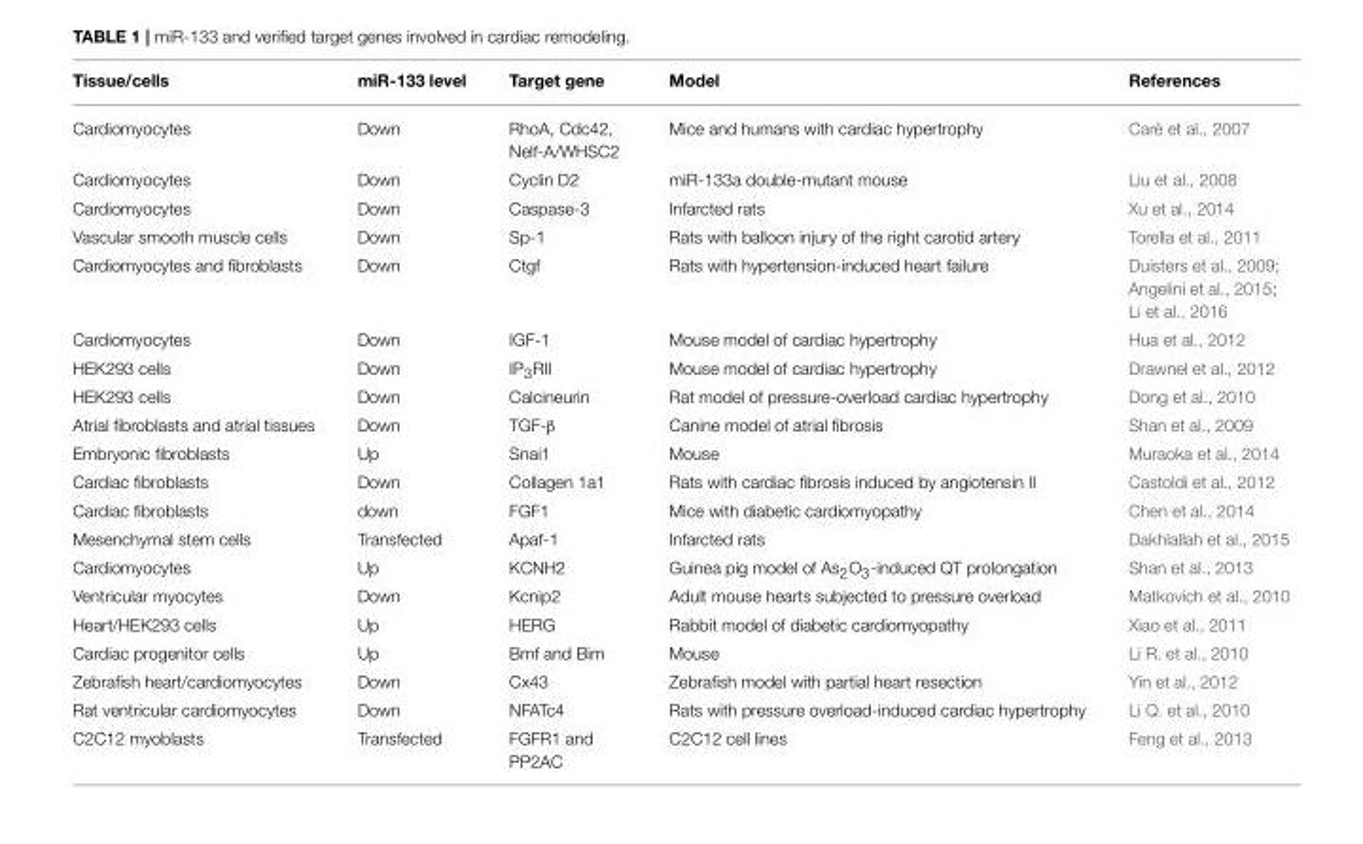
<table><thead><tr><td>Tissue/cells</td><td>miR-133 level</td><td>Target gene</td><td>Model</td><td>References</td></tr></thead><tbody><tr><td>Cardiomyocytes</td><td>Down</td><td>RhoA, Cdc42, Nelf-A/WHSC2</td><td>Mice and humans with cardiac hypertrophy</td><td>Carè et al., 2007</td></tr><tr><td>Cardiomyocytes</td><td>Down</td><td>Cyclin D2</td><td>miR-133a double-mutant mouse</td><td>Liu et al., 2008</td></tr><tr><td>Cardiomyocytes</td><td>Down</td><td>Caspase-3</td><td>Infarcted rats</td><td>Xu et al., 2014</td></tr><tr><td>Vascular smooth muscle cells</td><td>Down</td><td>Sp-1</td><td>Rats with balloon injury of the right carotid artery</td><td>Torella et al., 2011</td></tr><tr><td>Cardiomyocytes and fibroblasts</td><td>Down</td><td>Ctgf</td><td>Rats with hypertension-induced heart failure</td><td>Duisters et al., 2009; Angelini et al., 2015; Li et al., 2016</td></tr><tr><td>Cardiomyocytes</td><td>Down</td><td>IGF-1</td><td>Mouse model of cardiac hypertrophy</td><td>Hua et al., 2012</td></tr><tr><td>HEK293 cells</td><td>Down</td><td>IP<sub>3</sub>RII</td><td>Mouse model of cardiac hypertrophy</td><td>Drawnel et al., 2012</td></tr><tr><td>HEK293 cells</td><td>Down</td><td>Calcineurin</td><td>Rat model of pressure-overload cardiac hypertrophy</td><td>Dong et al., 2010</td></tr><tr><td>Atrial fibroblasts and atrial tissues</td><td>Down</td><td>TGF-β</td><td>Canine model of atrial fibrosis</td><td>Shan et al., 2009</td></tr><tr><td>Embryonic fibroblasts</td><td>Up</td><td>Snai1</td><td>Mouse</td><td>Muraoka et al., 2014</td></tr><tr><td>Cardiac fibroblasts</td><td>Down</td><td>Collagen 1a1</td><td>Rats with cardiac fibrosis induced by angiotensin II</td><td>Castoldi et al., 2012</td></tr><tr><td>Cardiac fibroblasts</td><td>down</td><td>FGF1</td><td>Mice with diabetic cardiomyopathy</td><td>Chen et al., 2014</td></tr><tr><td>Mesenchymal stem cells</td><td>Transfected</td><td>Apaf-1</td><td>Infarcted rats</td><td>Dakhlallah et al., 2015</td></tr><tr><td>Cardiomyocytes</td><td>Up</td><td>KCNH2</td><td>Guinea pig model of As<sub>2</sub>O<sub>3</sub>-induced QT prolongation</td><td>Shan et al., 2013</td></tr><tr><td>Ventricular myocytes</td><td>Down</td><td>Kcnip2</td><td>Adult mouse hearts subjected to pressure overload</td><td>Matkovich et al., 2010</td></tr><tr><td>Heart/HEK293 cells</td><td>Up</td><td>HERG</td><td>Rabbit model of diabetic cardiomyopathy</td><td>Xiao et al., 2011</td></tr><tr><td>Cardiac progenitor cells</td><td>Up</td><td>Bmf and Bim</td><td>Mouse</td><td>Li R. et al., 2010</td></tr><tr><td>Zebrafish heart/cardiomyocytes</td><td>Down</td><td>Cx43</td><td>Zebrafish model with partial heart resection</td><td>Yin et al., 2012</td></tr><tr><td>Rat ventricular cardiomyocytes</td><td>Down</td><td>NFATc4</td><td>Rats with pressure overload-induced cardiac hypertrophy</td><td>Li Q. et al., 2010</td></tr><tr><td>C2C12 myoblasts</td><td>Transfected</td><td>FGFR1 and PP2AC</td><td>C2C12 cell lines</td><td>Feng et al., 2013</td></tr></tbody></table>